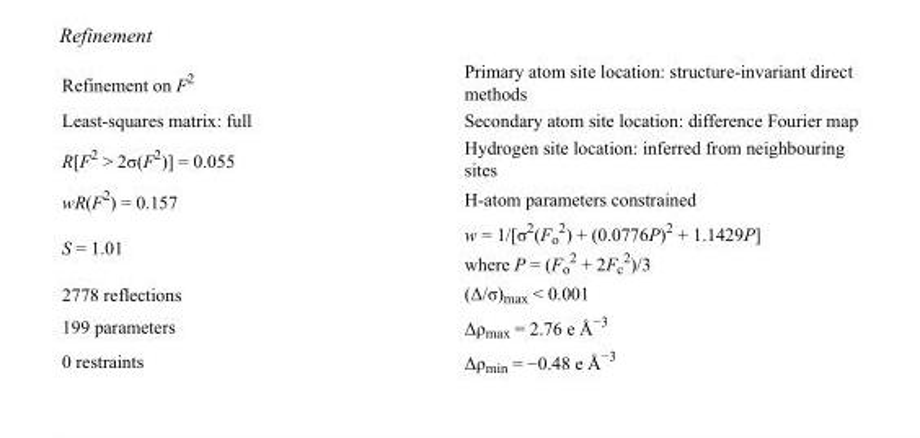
<table><tbody><tr><td>Refinement on F<sup>2</sup></td><td>Primary atom site location: structure-invariant direct methods</td></tr><tr><td>Least-squares matrix: full</td><td>Secondary atom site location: difference Fourier map</td></tr><tr><td>R[F<sup>2</sup> &gt; 2σ(F<sup>2</sup>)] = 0.055</td><td>Hydrogen site location: inferred from neighbouring sites</td></tr><tr><td>wR(F<sup>2</sup>) = 0.157</td><td>H-atom parameters constrained</td></tr><tr><td>S = 1.01</td><td>w = 1/[σ<sup>2</sup>(F<sub>o</sub> <sup>2</sup>) + (0.0776P)<sup>2</sup> + 1.1429P] where P = (F<sub>o</sub> <sup>2</sup> + 2F<sub>c</sub> <sup>2</sup>)/3</td></tr><tr><td>2778 reflections</td><td>(Δ/σ)<sub>max</sub> &lt; 0.001</td></tr><tr><td>199 parameters</td><td>Δρ<sub>max</sub> = 2.76 e Å<sup>−3</sup></td></tr><tr><td>0 restraints</td><td>Δρmin = −0.48 e Å−3</td></tr></tbody></table>